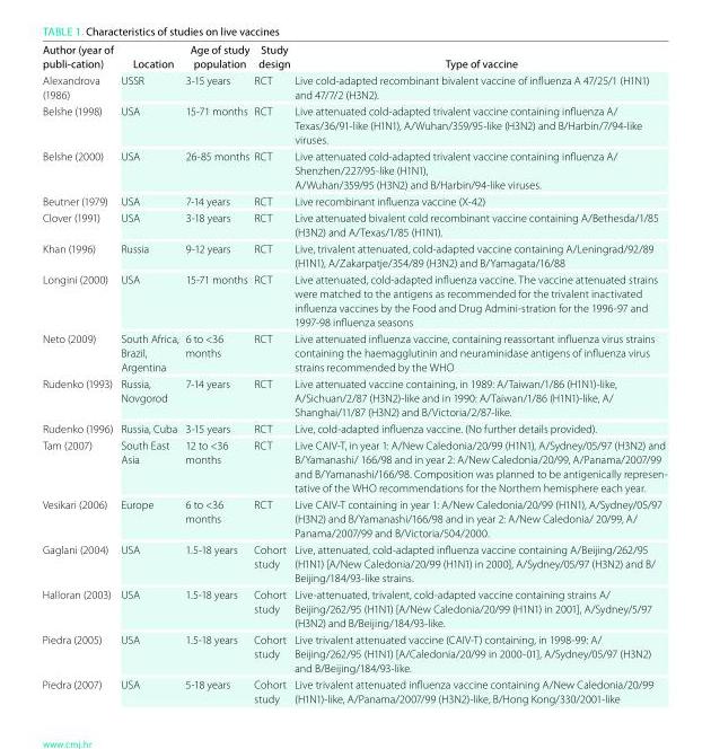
<table><thead><tr><td>Author (year of publi-cation)</td><td>Location</td><td>Age of study population</td><td>Study design</td><td>type of vaccine</td></tr></thead><tbody><tr><td>Alexandrova (1986)</td><td>USSR</td><td>3-15 years</td><td>RCT</td><td>Live cold-adapted recombinant bivalent vaccine of influenza A 47/25/1 (H1N1) and 47/7/2 (H3N2).</td></tr><tr><td>Belshe (1998)</td><td>USA</td><td>15-71 months</td><td>RCT</td><td>Live attenuated cold-adapted trivalent vaccine containing influenza A/ Texas/36/91-like (H1N1), A/Wuhan/359/95-like (H3N2) and B/Harbin/7/94-like viruses.</td></tr><tr><td>Belshe (2000)</td><td>USA</td><td>26-85 months</td><td>RCT</td><td>Live attenuated cold-adapted trivalent vaccine containing influenza A/ Shenzhen/227/95-like (H1N1), A/Wuhan/359/95 (H3N2) and B/Harbin/94-like viruses.</td></tr><tr><td>Beutner (1979)</td><td>USA</td><td>7-14 years</td><td>RCT</td><td>Live recombinant influenza vaccine (X-42)</td></tr><tr><td>Clover (1991)</td><td>USA</td><td>3-18 years</td><td>RCT</td><td>Live attenuated bivalent cold recombinant vaccine containing A/Bethesda/1/85 (H3N2) and A/Texas/1/85 (H1N1).</td></tr><tr><td>Khan (1996)</td><td>Russia</td><td>9-12 years</td><td>RCT</td><td>Live, trivalent attenuated, cold-adapted vaccine containing A/Leningrad/92/89 (H1N1), A/Zakarpatje/354/89 (H3N2) and B/Yamagata/16/88</td></tr><tr><td>Longini (2000)</td><td>USA</td><td>15-71 months</td><td>RCT</td><td>Live attenuated, cold-adapted influenza vaccine. The vaccine attenuated strains were matched to the antigens as recommended for the trivalent inactivated influenza vaccines by the Food and Drug Admini-stration for the 1996-97 and 1997-98 influenza seasons</td></tr><tr><td>Neto (2009)</td><td>South Africa, Brazil, Argentina</td><td>6 to &lt;36 months</td><td>RCT</td><td>Live attenuated influenza vaccine, containing reassortant influenza virus strains containing the haemagglutinin and neuraminidase antigens of influenza virus strains recommended by the WHO</td></tr><tr><td>Rudenko (1993)</td><td>Russia, Novgorod</td><td>7-14 years</td><td>RCT</td><td>Live attenuated vaccine containing, in 1989: A/Taiwan/1/86 (H1N1)-like, A/Sichuan/2/87 (H3N2)-like and in 1990: A/Taiwan/1/86 (H1N1)-like, A/ Shanghai/11/87 (H3N2) and B/Victoria/2/87-like.</td></tr><tr><td>Rudenko (1996)</td><td>Russia, Cuba</td><td>3-15 years</td><td>RCT</td><td>Live, cold-adapted influenza vaccine. (No further details provided).</td></tr><tr><td>Tam (2007)</td><td>South East Asia</td><td>12 to &lt;36 months</td><td>RCT</td><td>Live CAIV-T, in year 1: A/New Caledonia/20/99 (H1N1), A/Sydney/05/97 (H3N2) and B/Yamanashi/ 166/98 and in year 2: A/New Caledonia/20/99, A/Panama/2007/99 and B/Yamanashi/166/98. Composition was planned to be antigenically represen- tative of the WHO recommendations for the Northern hemisphere each year.</td></tr><tr><td>Vesikari (2006)</td><td>Europe</td><td>6 to &lt;36 months</td><td>RCT</td><td>Live CAIV-T containing in year 1: A/New Caledonia/20/99 (H1N1), A/Sydney/05/97 (H3N2) and B/Yamanashi/166/98 and in year 2: A/New Caledonia/ 20/99, A/ Panama/2007/99 and B/Victoria/504/2000.</td></tr><tr><td>Gaglani (2004)</td><td>USA</td><td>1.5-18 years</td><td>Cohort study</td><td>Live, attenuated, cold-adapted influenza vaccine containing A/Beijing/262/95 (H1N1) [A/New Caledonia/20/99 (H1N1) in 2000], A/Sydney/05/97 (H3N2) and B/ Beijing/184/93-like strains.</td></tr><tr><td>Halloran (2003)</td><td>USA</td><td>1.5-18 years</td><td>Cohort study</td><td>Live-attenuated, trivalent, cold-adapted vaccine containing strains A/ Beijing/262/95 (H1N1) [A/New Caledonia/20/99 (H1N1) in 2001], A/Sydney/5/97 (H3N2) and B/Beijing/184/93-like.</td></tr><tr><td>Piedra (2005)</td><td>USA</td><td>1.5-18 years</td><td>Cohort study</td><td>Live trivalent attenuated vaccine (CAIV-T) containing, in 1998-99: A/ Beijing/262/95 (H1N1) [A/Caledonia/20/99 in 2000-01], A/Sydney/05/97 (H3N2) and B/Beijing/184/93-like.</td></tr><tr><td>Piedra (2007)</td><td>USA</td><td>5-18 years</td><td>Cohort study</td><td>Live trivalent attenuated influenza vaccine containing A/New Caledonia/20/99 (H1N1)-like, A/Panama/2007/99 (H3N2)-like, B/Hong Kong/330/2001-like</td></tr></tbody></table>